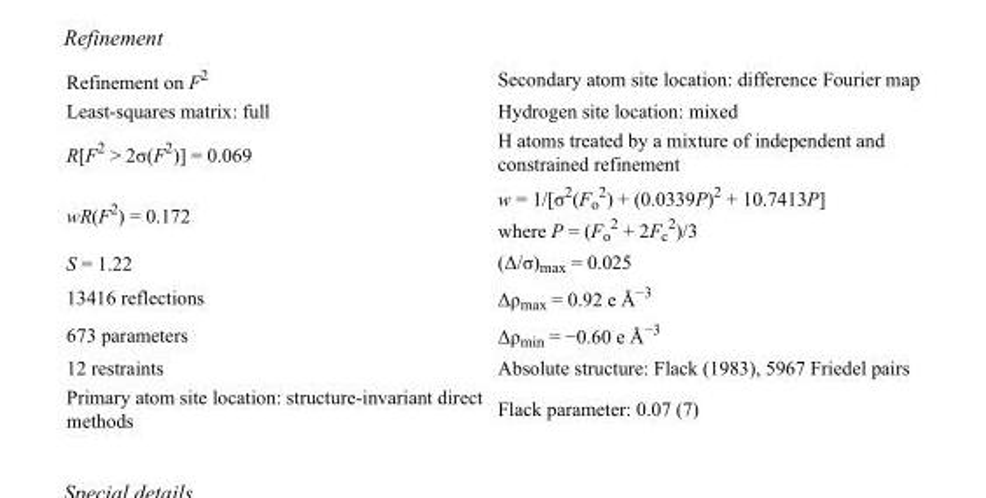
<table><tbody><tr><td>Refinement on F<sup>2</sup></td><td>Secondary atom site location: difference Fourier map</td></tr><tr><td>Least-squares matrix: full</td><td>Hydrogen site location: mixed</td></tr><tr><td>R[F<sup>2</sup> &gt; 2σ(F<sup>2</sup>)] = 0.069</td><td>H atoms treated by a mixture of independent and constrained refinement</td></tr><tr><td>wR(F<sup>2</sup>) = 0.172</td><td>w = 1/[σ<sup>2</sup>(F<sub>o</sub> <sup>2</sup>) + (0.0339P)<sup>2</sup> + 10.7413P] where P = (F<sub>o</sub> <sup>2</sup> + 2F<sub>c</sub> <sup>2</sup>)/3</td></tr><tr><td>S = 1.22</td><td>(Δ/σ)<sub>max</sub> = 0.025</td></tr><tr><td>13416 reflections</td><td>Δρ<sub>max</sub> = 0.92 e Å<sup>−3</sup></td></tr><tr><td>673 parameters</td><td>Δρ<sub>min</sub> = −0.60 e Å<sup>−3</sup></td></tr><tr><td>12 restraints</td><td>Absolute structure: Flack (1983), 5967 Friedel pairs</td></tr><tr><td>Primary atom site location: structure-invariant direct methods</td><td>Flack parameter: 0.07 (7)</td></tr></tbody></table>